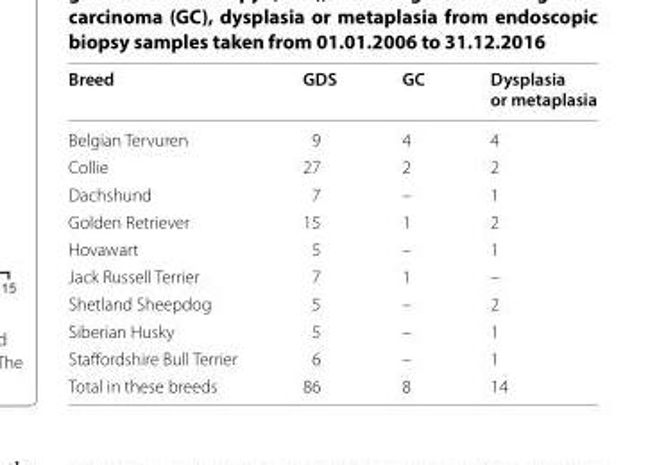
<table><thead><tr><td>Breed</td><td>GDS</td><td>GC</td><td>Dysplasia or metaplasia</td></tr></thead><tbody><tr><td>Belgian Tervuren</td><td>9</td><td>4</td><td>4</td></tr><tr><td>Collie</td><td>27</td><td>2</td><td>2</td></tr><tr><td>Dachshund</td><td>7</td><td>–</td><td>1</td></tr><tr><td>Golden Retriever</td><td>15</td><td>1</td><td>2</td></tr><tr><td>Hovawart</td><td>5</td><td>–</td><td>1</td></tr><tr><td>Jack Russell Terrier</td><td>7</td><td>1</td><td>–</td></tr><tr><td>Shetland Sheepdog</td><td>5</td><td>–</td><td>2</td></tr><tr><td>Siberian Husky</td><td>5</td><td>–</td><td>1</td></tr><tr><td>Staffordshire Bull Terrier</td><td>6</td><td>–</td><td>1</td></tr><tr><td>Total in these breeds</td><td>86</td><td>8</td><td>14</td></tr></tbody></table>